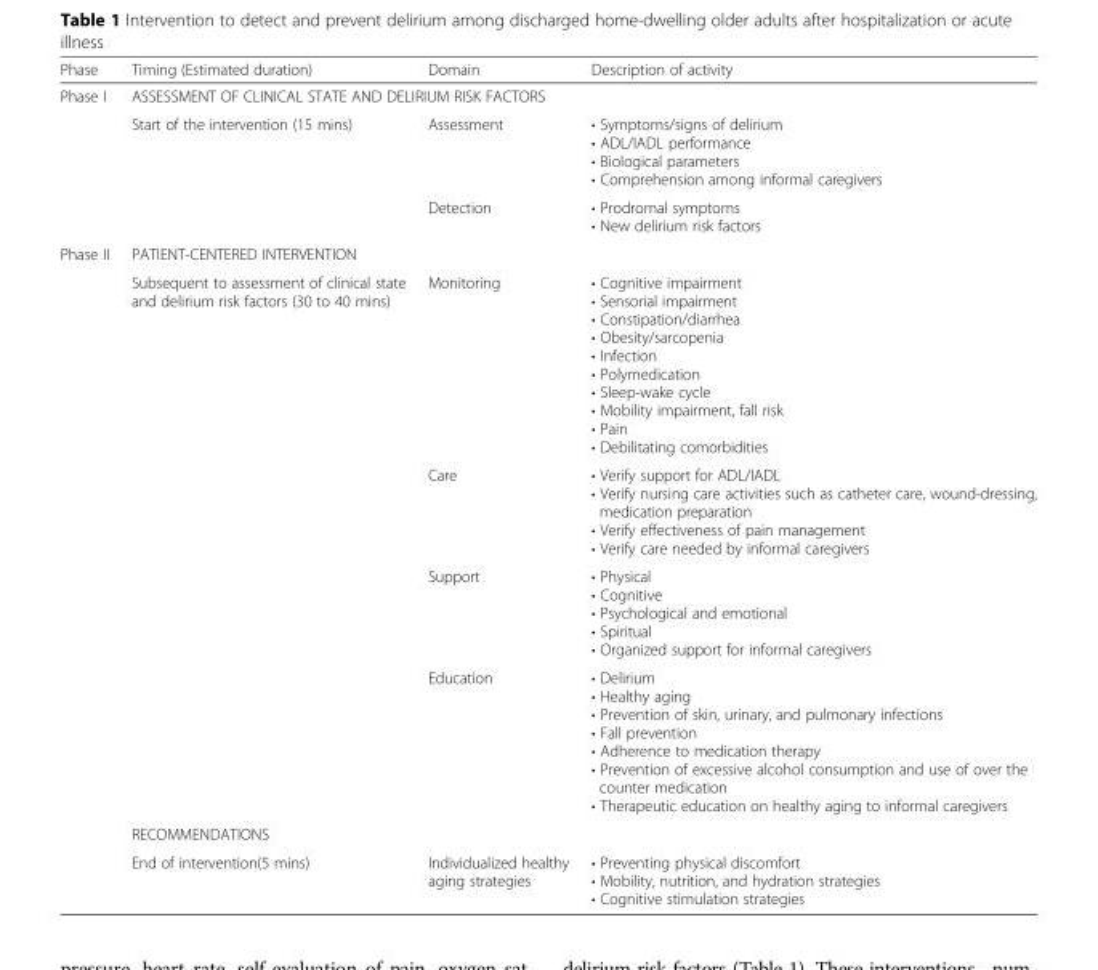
<table><thead><tr><td>Phase</td><td>Timing (Estimated duration)</td><td>Domain</td><td>Description of activity</td></tr></thead><tbody><tr><td rowspan="3">Phase I</td><td colspan="3">ASSESSMENT OF CLINICAL STATE AND DELIRIUM RISK FACTORS</td></tr><tr><td rowspan="2">Start of the intervention (15 mins)</td><td>Assessment</td><td>• Symptoms/signs of delirium • ADL/IADL performance • Biological parameters • Comprehension among informal caregivers</td></tr><tr><td>Detection</td><td>• Prodromal symptoms • New delirium risk factors</td></tr><tr><td rowspan="7">Phase II</td><td colspan="3">PATIENT-CENTERED INTERVENTION</td></tr><tr><td rowspan="4">Subsequent to assessment of clinical state and delirium risk factors (30 to 40 mins)</td><td>Monitoring</td><td>• Cognitive impairment • Sensorial impairment • Constipation/diarrhea • Obesity/sarcopenia • Infection • Polymedication • Sleep-wake cycle • Mobility impairment, fall risk • Pain • Debilitating comorbidities</td></tr><tr><td>Care</td><td>• Verify support for ADL/IADL • Verify nursing care activities such as catheter care, wound-dressing, medication preparation • Verify effectiveness of pain management • Verify care needed by informal caregivers</td></tr><tr><td>Support</td><td>• Physical • Cognitive • Psychological and emotional • Spiritual • Organized support for informal caregivers</td></tr><tr><td>Education</td><td>• Delirium • Healthy aging • Prevention of skin, urinary, and pulmonary infections • Fall prevention • Adherence to medication therapy • Prevention of excessive alcohol consumption and use of over the counter medication • Therapeutic education on healthy aging to informal caregivers</td></tr><tr><td colspan="3">RECOMMENDATIONS</td></tr><tr><td>End of intervention(5 mins)</td><td>Individualized healthy aging strategies</td><td>• Preventing physical discomfort • Mobility, nutrition, and hydration strategies • Cognitive stimulation strategies</td></tr></tbody></table>